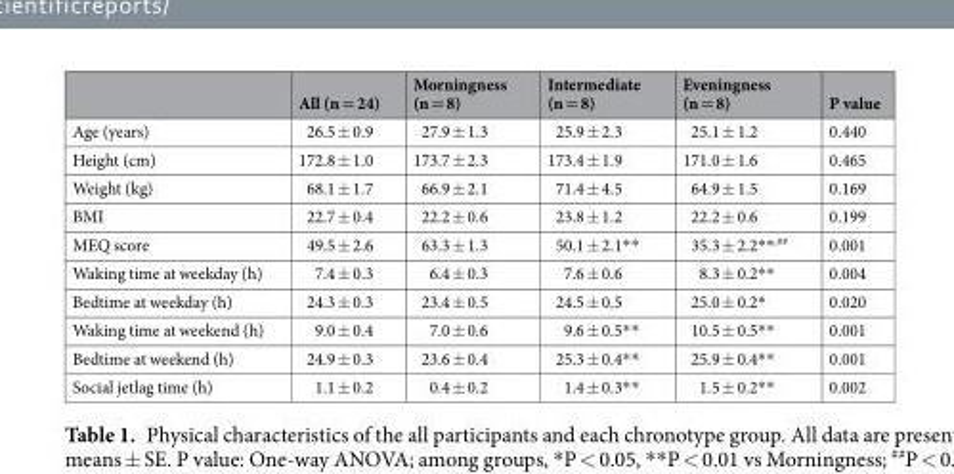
<table><thead><tr><td></td><td>All (n = 24)</td><td>Morningness (n = 8)</td><td>Intermediate (n = 8)</td><td>Eveningness (n = 8)</td><td>P value</td></tr></thead><tbody><tr><td>Age (years)</td><td>26.5 ± 0.9</td><td>27.9 ± 1.3</td><td>25.9 ± 2.3</td><td>25.1 ± 1.2</td><td>0.440</td></tr><tr><td>Height (cm)</td><td>172.8 ± 1.0</td><td>173.7 ± 2.3</td><td>173.4 ± 1.9</td><td>171.0 ± 1.6</td><td>0.465</td></tr><tr><td>Weight (kg)</td><td>68.1 ± 1.7</td><td>66.9 ± 2.1</td><td>71.4 ± 4.5</td><td>64.9 ± 1.5</td><td>0.169</td></tr><tr><td>BMI</td><td>22.7 ± 0.4</td><td>22.2 ± 0.6</td><td>23.8 ± 1.2</td><td>22.2 ± 0.6</td><td>0.199</td></tr><tr><td>MEQ score</td><td>49.5 ± 2.6</td><td>63.3 ± 1.3</td><td>50.1 ± 2.1**</td><td>35.3 ± 2.2**<sup>,##</sup></td><td>0.001</td></tr><tr><td>Waking time at weekday (h)</td><td>7.4 ± 0.3</td><td>6.4 ± 0.3</td><td>7.6 ± 0.6</td><td>8.3 ± 0.2**</td><td>0.004</td></tr><tr><td>Bedtime at weekday (h)</td><td>24.3 ± 0.3</td><td>23.4 ± 0.5</td><td>24.5 ± 0.5</td><td>25.0 ± 0.2*</td><td>0.020</td></tr><tr><td>Waking time at weekend (h)</td><td>9.0 ± 0.4</td><td>7.0 ± 0.6</td><td>9.6 ± 0.5**</td><td>10.5 ± 0.5**</td><td>0.001</td></tr><tr><td>Bedtime at weekend (h)</td><td>24.9 ± 0.3</td><td>23.6 ± 0.4</td><td>25.3 ± 0.4**</td><td>25.9 ± 0.4**</td><td>0.001</td></tr><tr><td>Social jetlag time (h)</td><td>1.1 ± 0.2</td><td>0.4 ± 0.2</td><td>1.4 ± 0.3**</td><td>1.5 ± 0.2**</td><td>0.002</td></tr></tbody></table>